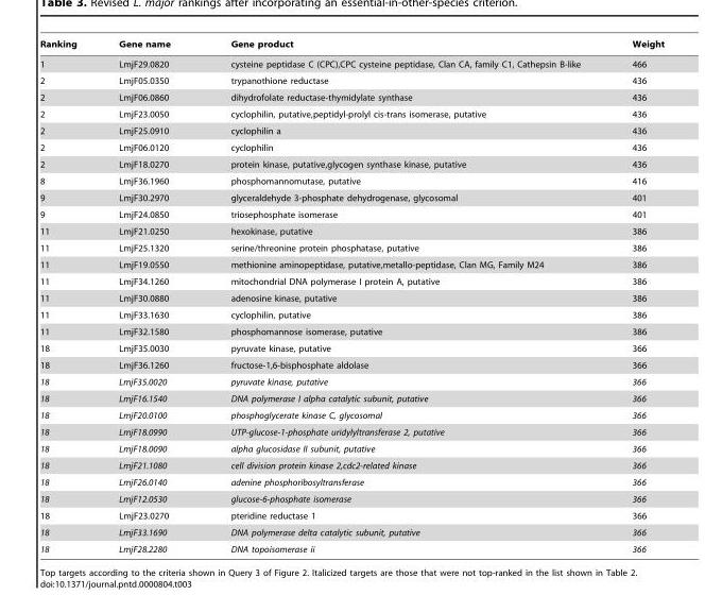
<table><thead><tr><td>Ranking</td><td>Gene name</td><td>Gene product</td><td>Weight</td></tr></thead><tbody><tr><td>1</td><td>LmjF29.0820</td><td>cysteine peptidase C (CPC),CPC cysteine peptidase, Clan CA, family C1, Cathepsin B-like</td><td>466</td></tr><tr><td>2</td><td>LmjF05.0350</td><td>trypanothione reductase</td><td>436</td></tr><tr><td>2</td><td>LmjF06.0860</td><td>dihydrofolate reductase-thymidylate synthase</td><td>436</td></tr><tr><td>2</td><td>LmjF23.0050</td><td>cyclophilin, putative,peptidyl-prolyl cis-trans isomerase, putative</td><td>436</td></tr><tr><td>2</td><td>LmjF25.0910</td><td>cyclophilin a</td><td>436</td></tr><tr><td>2</td><td>LmjF06.0120</td><td>cyclophilin</td><td>436</td></tr><tr><td>2</td><td>LmjF18.0270</td><td>protein kinase, putative,glycogen synthase kinase, putative</td><td>436</td></tr><tr><td>8</td><td>LmjF36.1960</td><td>phosphomannomutase, putative</td><td>416</td></tr><tr><td>9</td><td>LmjF30.2970</td><td>glyceraldehyde 3-phosphate dehydrogenase, glycosomal</td><td>401</td></tr><tr><td>9</td><td>LmjF24.0850</td><td>triosephosphate isomerase</td><td>401</td></tr><tr><td>11</td><td>LmjF21.0250</td><td>hexokinase, putative</td><td>386</td></tr><tr><td>11</td><td>LmjF25.1320</td><td>serine/threonine protein phosphatase, putative</td><td>386</td></tr><tr><td>11</td><td>LmjF19.0550</td><td>methionine aminopeptidase, putative,metallo-peptidase, Clan MG, Family M24</td><td>386</td></tr><tr><td>11</td><td>LmjF34.1260</td><td>mitochondrial DNA polymerase I protein A, putative</td><td>386</td></tr><tr><td>11</td><td>LmjF30.0880</td><td>adenosine kinase, putative</td><td>386</td></tr><tr><td>11</td><td>LmjF33.1630</td><td>cyclophilin, putative</td><td>386</td></tr><tr><td>11</td><td>LmjF32.1580</td><td>phosphomannose isomerase, putative</td><td>386</td></tr><tr><td>18</td><td>LmjF35.0030</td><td>pyruvate kinase, putative</td><td>366</td></tr><tr><td>18</td><td>LmjF36.1260</td><td>fructose-1,6-bisphosphate aldolase</td><td>366</td></tr><tr><td>18</td><td>LmjF35.0020</td><td>pyruvate kinase, putative</td><td>366</td></tr><tr><td>18</td><td>LmjF16.1540</td><td>DNA polymerase I alpha catalytic subunit, putative</td><td>366</td></tr><tr><td>18</td><td>LmjF20.0100</td><td>phosphoglycerate kinase C, glycosomal</td><td>366</td></tr><tr><td>18</td><td>LmjF18.0990</td><td>UTP-glucose-1-phosphate uridylyltransferase 2, putative</td><td>366</td></tr><tr><td>18</td><td>LmjF18.0090</td><td>alpha glucosidase II subunit, putative</td><td>366</td></tr><tr><td>18</td><td>LmjF21.1080</td><td>cell division protein kinase 2,cdc2-related kinase</td><td>366</td></tr><tr><td>18</td><td>LmjF26.0140</td><td>adenine phosphoribosyltransferase</td><td>366</td></tr><tr><td>18</td><td>LmjF12.0530</td><td>glucose-6-phosphate isomerase</td><td>366</td></tr><tr><td>18</td><td>LmjF23.0270</td><td>pteridine reductase 1</td><td>366</td></tr><tr><td>18</td><td>LmjF33.1690</td><td>DNA polymerase delta catalytic subunit, putative</td><td>366</td></tr><tr><td>18</td><td>LmjF28.2280</td><td>DNA topoisomerase ii</td><td>366</td></tr></tbody></table>